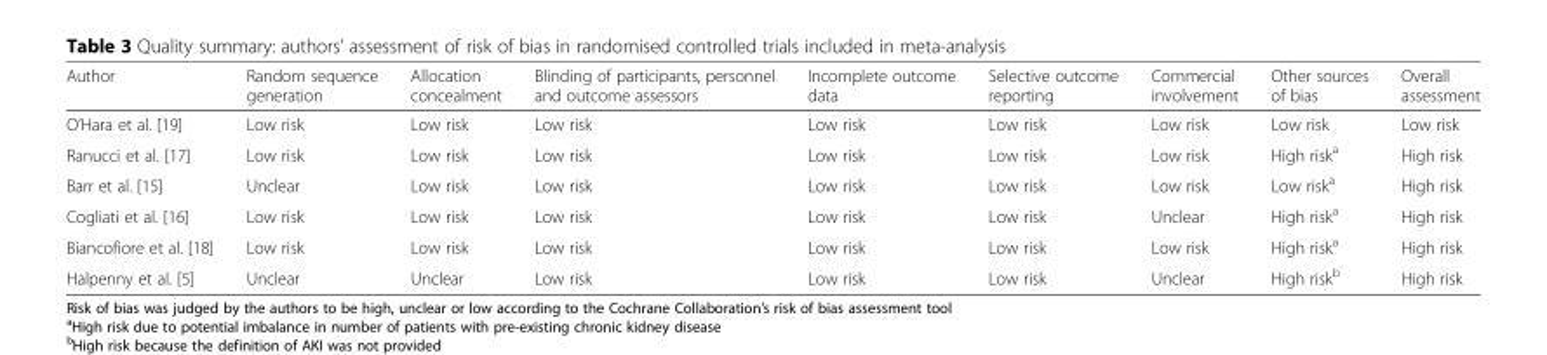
<table><thead><tr><td>Author</td><td>Random sequence generation</td><td>Allocation concealment</td><td>Blinding of participants, personnel and outcome assessors</td><td>Incomplete outcome data</td><td>Selective outcome reporting</td><td>Commercial involvement</td><td>Other sources of bias</td><td>Overall assessment</td></tr></thead><tbody><tr><td>O’Hara et al. [19]</td><td>Low risk</td><td>Low risk</td><td>Low risk</td><td>Low risk</td><td>Low risk</td><td>Low risk</td><td>Low risk</td><td>Low risk</td></tr><tr><td>Ranucci et al. [17]</td><td>Low risk</td><td>Low risk</td><td>Low risk</td><td>Low risk</td><td>Low risk</td><td>Low risk</td><td>High risk<sup>a</sup></td><td>High risk</td></tr><tr><td>Barr et al. [15]</td><td>Unclear</td><td>Low risk</td><td>Low risk</td><td>Low risk</td><td>Low risk</td><td>Low risk</td><td>Low risk<sup>a</sup></td><td>High risk</td></tr><tr><td>Cogliati et al. [16]</td><td>Low risk</td><td>Low risk</td><td>Low risk</td><td>Low risk</td><td>Low risk</td><td>Unclear</td><td>High risk<sup>a</sup></td><td>High risk</td></tr><tr><td>Biancofiore et al. [18]</td><td>Low risk</td><td>Low risk</td><td>Low risk</td><td>Low risk</td><td>Low risk</td><td>Low risk</td><td>High risk<sup>a</sup></td><td>High risk</td></tr><tr><td>Halpenny et al. [5]</td><td>Unclear</td><td>Unclear</td><td>Low risk</td><td>Low risk</td><td>Low risk</td><td>Unclear</td><td>High risk<sup>b</sup></td><td>High risk</td></tr></tbody></table>